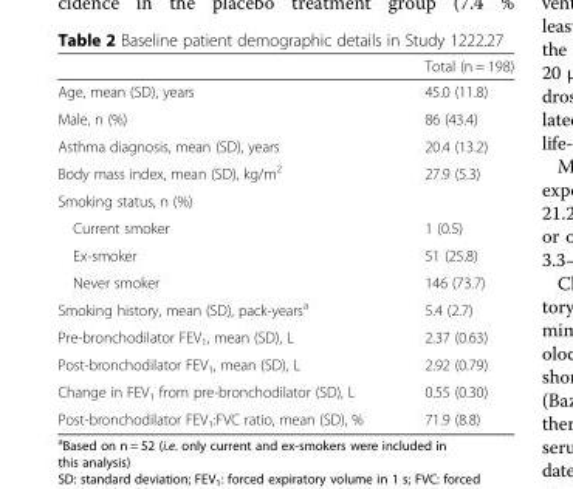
<table><thead><tr><td></td><td>Total (n = 198)</td></tr></thead><tbody><tr><td>Age, mean (SD), years</td><td>45.0 (11.8)</td></tr><tr><td>Male, n (%)</td><td>86 (43.4)</td></tr><tr><td>Asthma diagnosis, mean (SD), years</td><td>20.4 (13.2)</td></tr><tr><td>Body mass index, mean (SD), kg/m<sup>2</sup></td><td>27.9 (5.3)</td></tr><tr><td colspan="2">Smoking status, n (%)</td></tr><tr><td>Current smoker</td><td>1 (0.5)</td></tr><tr><td>Ex-smoker</td><td>51 (25.8)</td></tr><tr><td>Never smoker</td><td>146 (73.7)</td></tr><tr><td>Smoking history, mean (SD), pack-years<sup>a</sup></td><td>5.4 (2.7)</td></tr><tr><td>Pre-bronchodilator FEV<sub>1</sub>, mean (SD), L</td><td>2.37 (0.63)</td></tr><tr><td>Post-bronchodilator FEV<sub>1</sub>, mean (SD), L</td><td>2.92 (0.79)</td></tr><tr><td>Change in FEV<sub>1</sub> from pre-bronchodilator (SD), L</td><td>0.55 (0.30)</td></tr><tr><td>Post-bronchodilator FEV<sub>1</sub>:FVC ratio, mean (SD), %</td><td>71.9 (8.8)</td></tr></tbody></table>